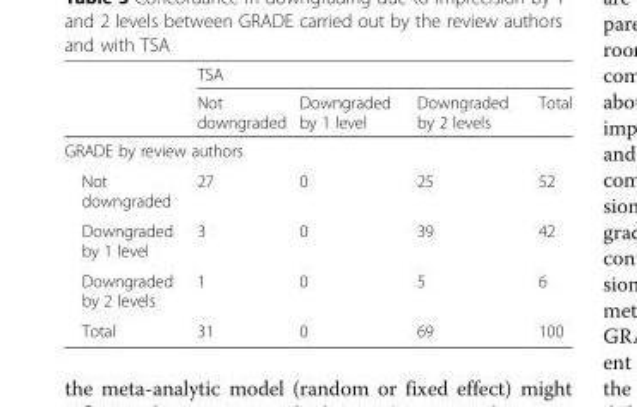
<table><thead><tr><td rowspan="2"></td><td colspan="4">TSA</td></tr><tr><td>Not downgraded</td><td>Downgraded by 1 level</td><td>Downgraded by 2 levels</td><td>Total</td></tr></thead><tbody><tr><td colspan="5">GRADE by review authors</td></tr><tr><td>Not downgraded</td><td>27</td><td>0</td><td>25</td><td>52</td></tr><tr><td>Downgraded by 1 level</td><td>3</td><td>0</td><td>39</td><td>42</td></tr><tr><td>Downgraded by 2 levels</td><td>1</td><td>0</td><td>5</td><td>6</td></tr><tr><td>Total</td><td>31</td><td>0</td><td>69</td><td>100</td></tr></tbody></table>